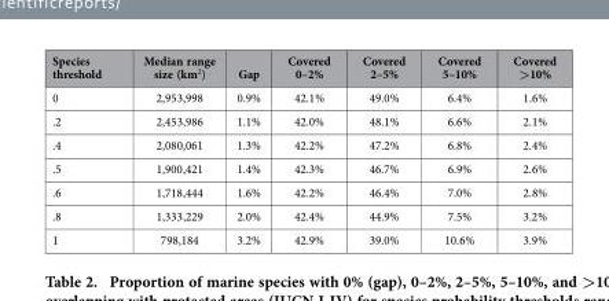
<table><thead><tr><td>Species threshold</td><td>Median range size (km<sup>2</sup>)</td><td>Gap</td><td>Covered 0–2%</td><td>Covered 2–5%</td><td>Covered 5–10%</td><td>Covered &gt;10%</td></tr></thead><tbody><tr><td>0</td><td>2,953,998</td><td>0.9%</td><td>42.1%</td><td>49.0%</td><td>6.4%</td><td>1.6%</td></tr><tr><td>.2</td><td>2,453,986</td><td>1.1%</td><td>42.0%</td><td>48.1%</td><td>6.6%</td><td>2.1%</td></tr><tr><td>.4</td><td>2,080,061</td><td>1.3%</td><td>42.2%</td><td>47.2%</td><td>6.8%</td><td>2.4%</td></tr><tr><td>.5</td><td>1,900,421</td><td>1.4%</td><td>42.3%</td><td>46.7%</td><td>6.9%</td><td>2.6%</td></tr><tr><td>.6</td><td>1,718,444</td><td>1.6%</td><td>42.2%</td><td>46.4%</td><td>7.0%</td><td>2.8%</td></tr><tr><td>.8</td><td>1,333,229</td><td>2.0%</td><td>42.4%</td><td>44.9%</td><td>7.5%</td><td>3.2%</td></tr><tr><td>1</td><td>798,184</td><td>3.2%</td><td>42.9%</td><td>39.0%</td><td>10.6%</td><td>3.9%</td></tr></tbody></table>